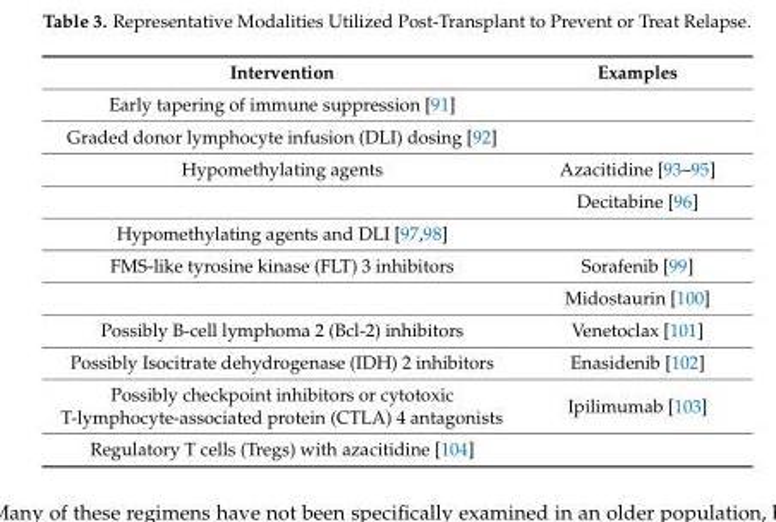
<table><thead><tr><td>Intervention</td><td>Examples</td></tr></thead><tbody><tr><td colspan="2">Early tapering of immune suppression [91]</td></tr><tr><td colspan="2">Graded donor lymphocyte infusion (DLI) dosing [92]</td></tr><tr><td rowspan="2">Hypomethylating agents</td><td>Azacitidine [93–95]</td></tr><tr><td>Decitabine [96]</td></tr><tr><td colspan="2">Hypomethylating agents and DLI [97,98]</td></tr><tr><td rowspan="2">FMS-like tyrosine kinase (FLT) 3 inhibitors</td><td>Sorafenib [99]</td></tr><tr><td>Midostaurin [100]</td></tr><tr><td>Possibly B-cell lymphoma 2 (Bcl-2) inhibitors</td><td>Venetoclax [101]</td></tr><tr><td>Possibly Isocitrate dehydrogenase (IDH) 2 inhibitors</td><td>Enasidenib [102]</td></tr><tr><td>Possibly checkpoint inhibitors or cytotoxic T-lymphocyte-associated protein (CTLA) 4 antagonists</td><td>Ipilimumab [103]</td></tr><tr><td>Regulatory T cells (Tregs) with azacitidine [104]</td><td></td></tr></tbody></table>